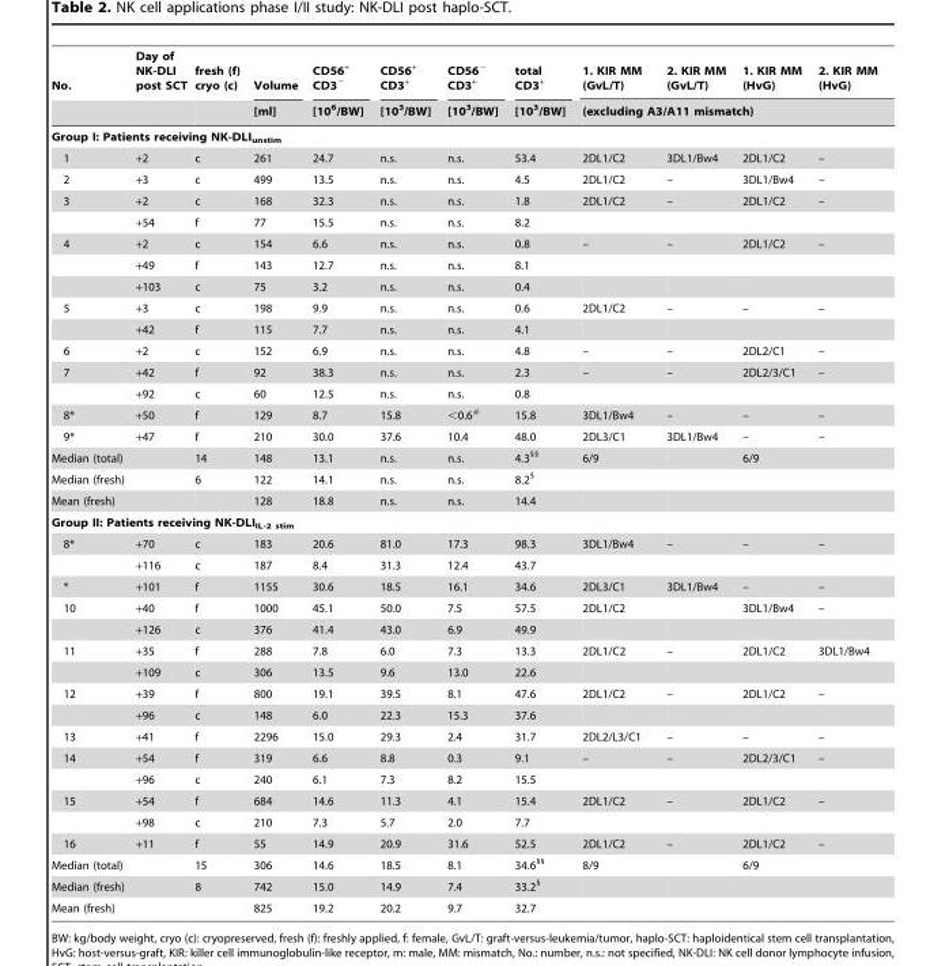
<table><thead><tr><td rowspan="2">No.</td><td rowspan="2">Day of NK-DLI post SCT</td><td rowspan="2">fresh (f) cryo (c)</td><td rowspan="2">Volume [ml]</td><td rowspan="2">CD56<sup>+</sup> CD3<sup>−</sup> [10<sup>6</sup>/BW]</td><td rowspan="2">CD56<sup>+</sup> CD3<sup>+</sup> [10<sup>3</sup>/BW]</td><td rowspan="2">CD56<sup>−</sup> CD3<sup>+</sup> [10<sup>3</sup>/BW]</td><td rowspan="2">total CD3<sup>+</sup> [10<sup>3</sup>/BW]</td><td>1. KIR MM (GvL/T)</td><td>2. KIR MM (GvL/T)</td><td>1. KIR MM (HvG)</td><td>2. KIR MM (HvG)</td></tr><tr><td colspan="4">(excluding A3/A11 mismatch)</td></tr></thead><tbody><tr><td colspan="12">Group I: Patients receiving NK-DLI<sub>unstim</sub></td></tr><tr><td>1</td><td>+2</td><td>c</td><td>261</td><td>24.7</td><td>n.s.</td><td>n.s.</td><td>53.4</td><td>2DL1/C2</td><td>3DL1/Bw4</td><td>2DL1/C2</td><td>–</td></tr><tr><td>2</td><td>+3</td><td>c</td><td>499</td><td>13.5</td><td>n.s.</td><td>n.s.</td><td>4.5</td><td>2DL1/C2</td><td>–</td><td>3DL1/Bw4</td><td>–</td></tr><tr><td rowspan="2">3</td><td>+2</td><td>c</td><td>168</td><td>32.3</td><td>n.s.</td><td>n.s.</td><td>1.8</td><td>2DL1/C2</td><td>–</td><td>2DL1/C2</td><td>–</td></tr><tr><td>+54</td><td>f</td><td>77</td><td>15.5</td><td>n.s.</td><td>n.s.</td><td>8.2</td><td></td><td></td><td></td><td></td></tr><tr><td rowspan="3">4</td><td>+2</td><td>c</td><td>154</td><td>6.6</td><td>n.s.</td><td>n.s.</td><td>0.8</td><td>–</td><td>–</td><td>2DL1/C2</td><td>–</td></tr><tr><td>+49</td><td>f</td><td>143</td><td>12.7</td><td>n.s.</td><td>n.s.</td><td>8.1</td><td></td><td></td><td></td><td></td></tr><tr><td>+103</td><td>c</td><td>75</td><td>3.2</td><td>n.s.</td><td>n.s.</td><td>0.4</td><td></td><td></td><td></td><td></td></tr><tr><td rowspan="2">5</td><td>+3</td><td>c</td><td>198</td><td>9.9</td><td>n.s.</td><td>n.s.</td><td>0.6</td><td>2DL1/C2</td><td>–</td><td>–</td><td>–</td></tr><tr><td>+42</td><td>f</td><td>115</td><td>7.7</td><td>n.s.</td><td>n.s.</td><td>4.1</td><td></td><td></td><td></td><td></td></tr><tr><td>6</td><td>+2</td><td>c</td><td>152</td><td>6.9</td><td>n.s.</td><td>n.s.</td><td>4.8</td><td>–</td><td>–</td><td>2DL2/C1</td><td>–</td></tr><tr><td rowspan="2">7</td><td>+42</td><td>f</td><td>92</td><td>38.3</td><td>n.s.</td><td>n.s.</td><td>2.3</td><td>–</td><td>–</td><td>2DL2/3/C1</td><td>–</td></tr><tr><td>+92</td><td>c</td><td>60</td><td>12.5</td><td>n.s.</td><td>n.s.</td><td>0.8</td><td></td><td></td><td></td><td></td></tr><tr><td>8*</td><td>+50</td><td>f</td><td>129</td><td>8.7</td><td>15.8</td><td>&lt;0.6#</td><td>15.8</td><td>3DL1/Bw4</td><td>–</td><td>–</td><td>–</td></tr><tr><td>9*</td><td>+47</td><td>f</td><td>210</td><td>30.0</td><td>37.6</td><td>10.4</td><td>48.0</td><td>2DL3/C1</td><td>3DL1/Bw4</td><td>–</td><td>–</td></tr><tr><td colspan="2">Median (total)</td><td>14</td><td>148</td><td>13.1</td><td>n.s.</td><td>n.s.</td><td>4.3§§</td><td>6/9</td><td></td><td>6/9</td><td></td></tr><tr><td colspan="2">Median (fresh)</td><td>6</td><td>122</td><td>14.1</td><td>n.s.</td><td>n.s.</td><td>8.2§</td><td></td><td></td><td></td><td></td></tr><tr><td colspan="2">Mean (fresh)</td><td></td><td>128</td><td>18.8</td><td>n.s.</td><td>n.s.</td><td>14.4</td><td></td><td></td><td></td><td></td></tr><tr><td colspan="12">Group II: Patients receiving NK-DLI<sub>IL-2 stim</sub></td></tr><tr><td rowspan="2">8*</td><td>+70</td><td>c</td><td>183</td><td>20.6</td><td>81.0</td><td>17.3</td><td>98.3</td><td>3DL1/Bw4</td><td>–</td><td>–</td><td>–</td></tr><tr><td>+116</td><td>c</td><td>187</td><td>8.4</td><td>31.3</td><td>12.4</td><td>43.7</td><td></td><td></td><td></td><td></td></tr><tr><td>*</td><td>+101</td><td>f</td><td>1155</td><td>30.6</td><td>18.5</td><td>16.1</td><td>34.6</td><td>2DL3/C1</td><td>3DL1/Bw4</td><td>–</td><td>–</td></tr><tr><td rowspan="2">10</td><td>+40</td><td>f</td><td>1000</td><td>45.1</td><td>50.0</td><td>7.5</td><td>57.5</td><td>2DL1/C2</td><td></td><td>3DL1/Bw4</td><td>–</td></tr><tr><td>+126</td><td>c</td><td>376</td><td>41.4</td><td>43.0</td><td>6.9</td><td>49.9</td><td></td><td></td><td></td><td></td></tr><tr><td rowspan="2">11</td><td>+35</td><td>f</td><td>288</td><td>7.8</td><td>6.0</td><td>7.3</td><td>13.3</td><td>2DL1/C2</td><td>–</td><td>2DL1/C2</td><td>3DL1/Bw4</td></tr><tr><td>+109</td><td>c</td><td>306</td><td>13.5</td><td>9.6</td><td>13.0</td><td>22.6</td><td></td><td></td><td></td><td></td></tr><tr><td rowspan="2">12</td><td>+39</td><td>f</td><td>800</td><td>19.1</td><td>39.5</td><td>8.1</td><td>47.6</td><td>2DL1/C2</td><td>–</td><td>2DL1/C2</td><td>–</td></tr><tr><td>+96</td><td>c</td><td>148</td><td>6.0</td><td>22.3</td><td>15.3</td><td>37.6</td><td></td><td></td><td></td><td></td></tr><tr><td>13</td><td>+41</td><td>f</td><td>2296</td><td>15.0</td><td>29.3</td><td>2.4</td><td>31.7</td><td>2DL2/L3/C1</td><td>–</td><td>–</td><td>–</td></tr><tr><td rowspan="2">14</td><td>+54</td><td>f</td><td>319</td><td>6.6</td><td>8.8</td><td>0.3</td><td>9.1</td><td>–</td><td>–</td><td>2DL2/3/C1</td><td>–</td></tr><tr><td>+96</td><td>c</td><td>240</td><td>6.1</td><td>7.3</td><td>8.2</td><td>15.5</td><td></td><td></td><td></td><td></td></tr><tr><td rowspan="2">15</td><td>+54</td><td>f</td><td>684</td><td>14.6</td><td>11.3</td><td>4.1</td><td>15.4</td><td>2DL1/C2</td><td>–</td><td>2DL1/C2</td><td>–</td></tr><tr><td>+98</td><td>c</td><td>210</td><td>7.3</td><td>5.7</td><td>2.0</td><td>7.7</td><td></td><td></td><td></td><td></td></tr><tr><td>16</td><td>+11</td><td>f</td><td>55</td><td>14.9</td><td>20.9</td><td>31.6</td><td>52.5</td><td>2DL1/C2</td><td>–</td><td>2DL1/C2</td><td>–</td></tr><tr><td colspan="2">Median (total)</td><td>15</td><td>306</td><td>14.6</td><td>18.5</td><td>8.1</td><td>34.6§§</td><td>8/9</td><td></td><td>6/9</td><td></td></tr><tr><td colspan="2">Median (fresh)</td><td>8</td><td>742</td><td>15.0</td><td>14.9</td><td>7.4</td><td>33.2§</td><td></td><td></td><td></td><td></td></tr><tr><td colspan="2">Mean (fresh)</td><td></td><td>825</td><td>19.2</td><td>20.2</td><td>9.7</td><td>32.7</td><td></td><td></td><td></td><td></td></tr></tbody></table>